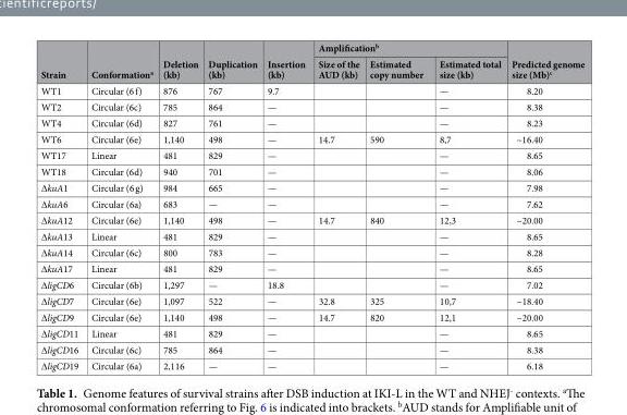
<table><thead><tr><td rowspan="2">Strain</td><td rowspan="2">Conformation<sup>a</sup></td><td rowspan="2">Deletion (kb)</td><td rowspan="2">Duplication (kb)</td><td rowspan="2">Insertion (kb)</td><td colspan="3">Amplification<sup>b</sup></td><td rowspan="2">Predicted genome size (Mb)<sup>c</sup></td></tr><tr><td>Size of the AUD (kb)</td><td>Estimated copy number</td><td>Estimated total size (kb)</td></tr></thead><tbody><tr><td>WT1</td><td>Circular (6 f)</td><td>876</td><td>767</td><td>9.7</td><td></td><td></td><td>—</td><td>8.20</td></tr><tr><td>WT2</td><td>Circular (6c)</td><td>785</td><td>864</td><td>—</td><td></td><td></td><td>—</td><td>8.38</td></tr><tr><td>WT4</td><td>Circular (6d)</td><td>827</td><td>761</td><td>—</td><td></td><td></td><td>—</td><td>8.23</td></tr><tr><td>WT6</td><td>Circular (6e)</td><td>1,140</td><td>498</td><td>—</td><td>14.7</td><td>590</td><td>8,7</td><td>~16.40</td></tr><tr><td>WT17</td><td>Linear</td><td>481</td><td>829</td><td>—</td><td></td><td></td><td>—</td><td>8.65</td></tr><tr><td>WT18</td><td>Circular (6d)</td><td>940</td><td>701</td><td>—</td><td></td><td></td><td>—</td><td>8.06</td></tr><tr><td>∆kuA1</td><td>Circular (6 g)</td><td>984</td><td>665</td><td>—</td><td></td><td></td><td>—</td><td>7.98</td></tr><tr><td>∆kuA6</td><td>Circular (6a)</td><td>683</td><td>—</td><td>—</td><td></td><td></td><td>—</td><td>7.62</td></tr><tr><td>∆kuA12</td><td>Circular (6e)</td><td>1,140</td><td>498</td><td>—</td><td>14.7</td><td>840</td><td>12,3</td><td>~20.00</td></tr><tr><td>∆kuA13</td><td>Linear</td><td>481</td><td>829</td><td>—</td><td></td><td></td><td>—</td><td>8.65</td></tr><tr><td>∆kuA14</td><td>Circular (6c)</td><td>800</td><td>783</td><td>—</td><td></td><td></td><td>—</td><td>8.28</td></tr><tr><td>∆kuA17</td><td>Linear</td><td>481</td><td>829</td><td>—</td><td></td><td></td><td>—</td><td>8.65</td></tr><tr><td>∆ligCD6</td><td>Circular (6b)</td><td>1,297</td><td>—</td><td>18.8</td><td></td><td></td><td>—</td><td>7.02</td></tr><tr><td>∆ligCD7</td><td>Circular (6e)</td><td>1,097</td><td>522</td><td>—</td><td>32.8</td><td>325</td><td>10,7</td><td>~18.40</td></tr><tr><td>∆ligCD9</td><td>Circular (6e)</td><td>1,140</td><td>498</td><td>—</td><td>14.7</td><td>820</td><td>12,1</td><td>~20.00</td></tr><tr><td>∆ligCD11</td><td>Linear</td><td>481</td><td>829</td><td>—</td><td></td><td></td><td>—</td><td>8.65</td></tr><tr><td>∆ligCD16</td><td>Circular (6c)</td><td>785</td><td>864</td><td>—</td><td></td><td></td><td>—</td><td>8.38</td></tr><tr><td>∆ligCD19</td><td>Circular (6a)</td><td>2,116</td><td>—</td><td>—</td><td></td><td></td><td>—</td><td>6.18</td></tr></tbody></table>